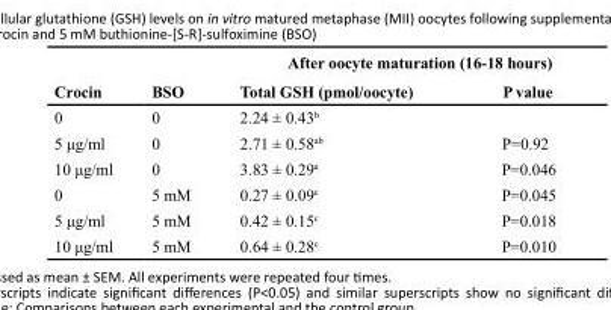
<table><thead><tr><td colspan="4">After oocyte maturation (16-18 hours)</td></tr><tr><td>Crocin</td><td>BSO</td><td>Total GSH (pmol/oocyte)</td><td>P value</td></tr></thead><tbody><tr><td>0</td><td>0</td><td>2.24 ± 0.43<sup>b</sup></td><td></td></tr><tr><td>5 μg/ml</td><td>0</td><td>2.71 ± 0.58<sup>ab</sup></td><td>P=0.92</td></tr><tr><td>10 μg/ml</td><td>0</td><td>3.83 ± 0.29<sup>a</sup></td><td>P=0.046</td></tr><tr><td>0</td><td>5 mM</td><td>0.27 ± 0.09c</td><td>P=0.045</td></tr><tr><td>5 μg/ml</td><td>5 mM</td><td>0.42 ± 0.15<sup>c</sup></td><td>P=0.018</td></tr><tr><td>10 μg/ml</td><td>5 mM</td><td>0.64 ± 0.28<sup>c</sup></td><td>P=0.010</td></tr></tbody></table>